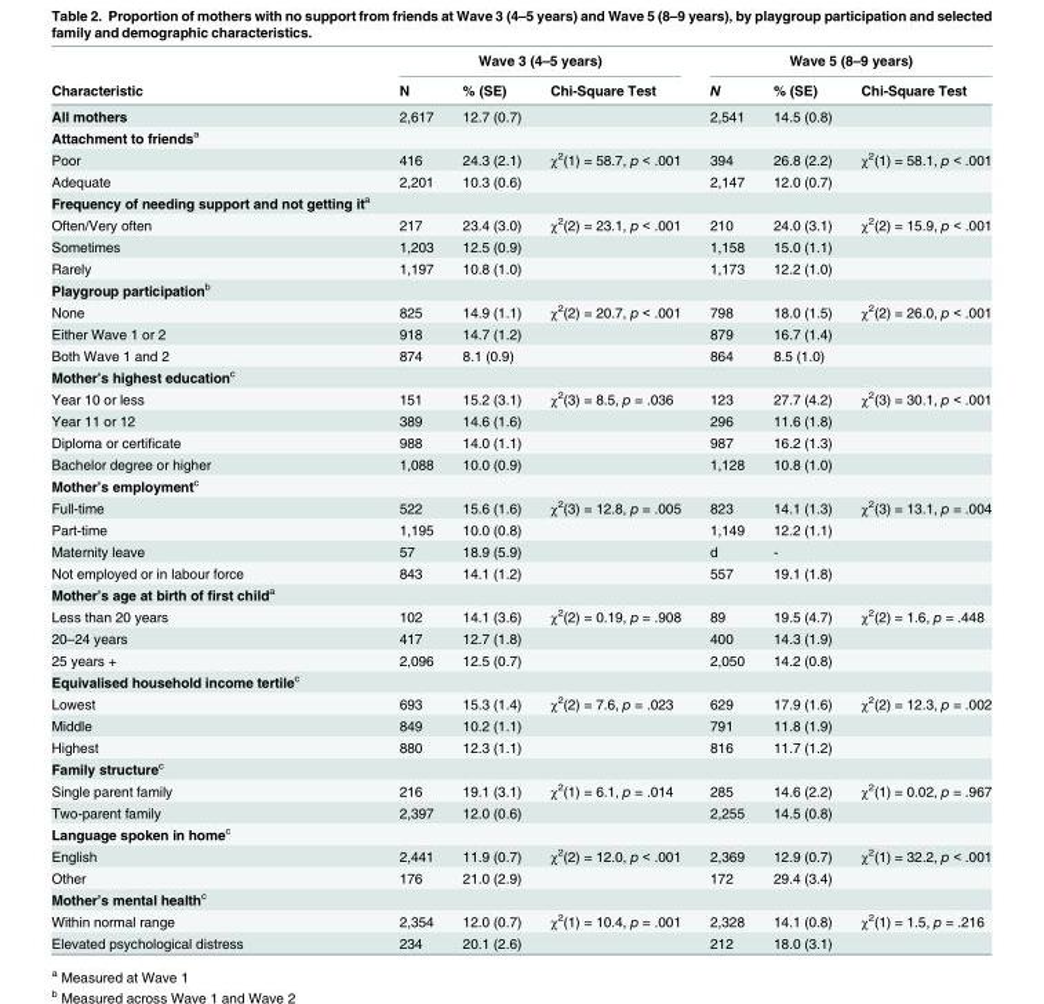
<table><thead><tr><td rowspan="2">Characteristic</td><td colspan="3">Wave 3 (4–5 years)</td><td colspan="3">Wave 5 (8–9 years)</td></tr><tr><td>N</td><td>% (SE)</td><td>Chi-Square Test</td><td>N</td><td>% (SE)</td><td>Chi-Square Test</td></tr></thead><tbody><tr><td>All mothers</td><td>2,617</td><td>12.7 (0.7)</td><td></td><td>2,541</td><td>14.5 (0.8)</td><td></td></tr><tr><td colspan="7">Attachment to friends<sup>a</sup></td></tr><tr><td>Poor</td><td>416</td><td>24.3 (2.1)</td><td>χ<sup>2</sup>(1) = 58.7, p &lt; .001</td><td>394</td><td>26.8 (2.2)</td><td>χ<sup>2</sup>(1) = 58.1, p &lt; .001</td></tr><tr><td>Adequate</td><td>2,201</td><td>10.3 (0.6)</td><td></td><td>2,147</td><td>12.0 (0.7)</td><td></td></tr><tr><td colspan="7">Frequency of needing support and not getting it<sup>a</sup></td></tr><tr><td>Often/Very often</td><td>217</td><td>23.4 (3.0)</td><td>χ<sup>2</sup>(2) = 23.1, p &lt; .001</td><td>210</td><td>24.0 (3.1)</td><td>χ<sup>2</sup>(2) = 15.9, p &lt; .001</td></tr><tr><td>Sometimes</td><td>1,203</td><td>12.5 (0.9)</td><td></td><td>1,158</td><td>15.0 (1.1)</td><td></td></tr><tr><td>Rarely</td><td>1,197</td><td>10.8 (1.0)</td><td></td><td>1,173</td><td>12.2 (1.0)</td><td></td></tr><tr><td colspan="7">Playgroup participation<sup>b</sup></td></tr><tr><td>None</td><td>825</td><td>14.9 (1.1)</td><td>χ<sup>2</sup>(2) = 20.7, p &lt; .001</td><td>798</td><td>18.0 (1.5)</td><td>χ<sup>2</sup>(2) = 26.0, p &lt; .001</td></tr><tr><td>Either Wave 1 or 2</td><td>918</td><td>14.7 (1.2)</td><td></td><td>879</td><td>16.7 (1.4)</td><td></td></tr><tr><td>Both Wave 1 and 2</td><td>874</td><td>8.1 (0.9)</td><td></td><td>864</td><td>8.5 (1.0)</td><td></td></tr><tr><td colspan="7">Mother’s highest education<sup>c</sup></td></tr><tr><td>Year 10 or less</td><td>151</td><td>15.2 (3.1)</td><td>χ<sup>2</sup>(3) = 8.5, p = .036</td><td>123</td><td>27.7 (4.2)</td><td>χ<sup>2</sup>(3) = 30.1, p &lt; .001</td></tr><tr><td>Year 11 or 12</td><td>389</td><td>14.6 (1.6)</td><td></td><td>296</td><td>11.6 (1.8)</td><td></td></tr><tr><td>Diploma or certificate</td><td>988</td><td>14.0 (1.1)</td><td></td><td>987</td><td>16.2 (1.3)</td><td></td></tr><tr><td>Bachelor degree or higher</td><td>1,088</td><td>10.0 (0.9)</td><td></td><td>1,128</td><td>10.8 (1.0)</td><td></td></tr><tr><td colspan="7">Mother’s employment<sup>c</sup></td></tr><tr><td>Full-time</td><td>522</td><td>15.6 (1.6)</td><td>χ<sup>2</sup>(3) = 12.8, p = .005</td><td>823</td><td>14.1 (1.3)</td><td>χ<sup>2</sup>(3) = 13.1, p = .004</td></tr><tr><td>Part-time</td><td>1,195</td><td>10.0 (0.8)</td><td></td><td>1,149</td><td>12.2 (1.1)</td><td></td></tr><tr><td>Maternity leave</td><td>57</td><td>18.9 (5.9)</td><td></td><td>d</td><td>-</td><td></td></tr><tr><td>Not employed or in labour force</td><td>843</td><td>14.1 (1.2)</td><td></td><td>557</td><td>19.1 (1.8)</td><td></td></tr><tr><td colspan="7">Mother’s age at birth of first child<sup>a</sup></td></tr><tr><td>Less than 20 years</td><td>102</td><td>14.1 (3.6)</td><td>χ<sup>2</sup>(2) = 0.19, p = .908</td><td>89</td><td>19.5 (4.7)</td><td>χ<sup>2</sup>(2) = 1.6, p = .448</td></tr><tr><td>20–24 years</td><td>417</td><td>12.7 (1.8)</td><td></td><td>400</td><td>14.3 (1.9)</td><td></td></tr><tr><td>25 years +</td><td>2,096</td><td>12.5 (0.7)</td><td></td><td>2,050</td><td>14.2 (0.8)</td><td></td></tr><tr><td colspan="7">Equivalised household income tertile<sup>c</sup></td></tr><tr><td>Lowest</td><td>693</td><td>15.3 (1.4)</td><td>χ<sup>2</sup>(2) = 7.6, p = .023</td><td>629</td><td>17.9 (1.6)</td><td>χ<sup>2</sup>(2) = 12.3, p = .002</td></tr><tr><td>Middle</td><td>849</td><td>10.2 (1.1)</td><td></td><td>791</td><td>11.8 (1.9)</td><td></td></tr><tr><td>Highest</td><td>880</td><td>12.3 (1.1)</td><td></td><td>816</td><td>11.7 (1.2)</td><td></td></tr><tr><td colspan="7">Family structure<sup>c</sup></td></tr><tr><td>Single parent family</td><td>216</td><td>19.1 (3.1)</td><td>χ<sup>2</sup>(1) = 6.1, p = .014</td><td>285</td><td>14.6 (2.2)</td><td>χ<sup>2</sup>(1) = 0.02, p = .967</td></tr><tr><td>Two-parent family</td><td>2,397</td><td>12.0 (0.6)</td><td></td><td>2,255</td><td>14.5 (0.8)</td><td></td></tr><tr><td colspan="7">Language spoken in home<sup>c</sup></td></tr><tr><td>English</td><td>2,441</td><td>11.9 (0.7)</td><td>χ<sup>2</sup>(2) = 12.0, p &lt; .001</td><td>2,369</td><td>12.9 (0.7)</td><td>χ<sup>2</sup>(1) = 32.2, p &lt; .001</td></tr><tr><td>Other</td><td>176</td><td>21.0 (2.9)</td><td></td><td>172</td><td>29.4 (3.4)</td><td></td></tr><tr><td colspan="7">Mother’s mental health<sup>c</sup></td></tr><tr><td>Within normal range</td><td>2,354</td><td>12.0 (0.7)</td><td>χ<sup>2</sup>(1) = 10.4, p = .001</td><td>2,328</td><td>14.1 (0.8)</td><td>χ<sup>2</sup>(1) = 1.5, p = .216</td></tr><tr><td>Elevated psychological distress</td><td>234</td><td>20.1 (2.6)</td><td></td><td>212</td><td>18.0 (3.1)</td><td></td></tr></tbody></table>